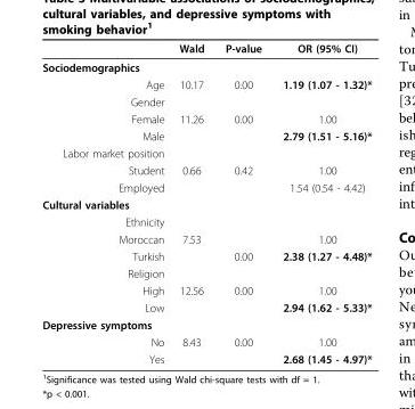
<table><thead><tr><td></td><td>Wald</td><td>P-value</td><td>OR (95% CI)</td></tr></thead><tbody><tr><td colspan="4">Sociodemographics</td></tr><tr><td>Age</td><td>10.17</td><td>0.00</td><td>1.19 (1.07 - 1.32)*</td></tr><tr><td colspan="4">Gender</td></tr><tr><td>Female</td><td>11.26</td><td>0.00</td><td>1.00</td></tr><tr><td>Male</td><td></td><td></td><td>2.79 (1.51 - 5.16)*</td></tr><tr><td colspan="4">Labor market position</td></tr><tr><td>Student</td><td>0.66</td><td>0.42</td><td>1.00</td></tr><tr><td>Employed</td><td></td><td></td><td>1.54 (0.54 - 4.42)</td></tr><tr><td colspan="4">Cultural variables</td></tr><tr><td colspan="4">Ethnicity</td></tr><tr><td>Moroccan</td><td>7.53</td><td></td><td>1.00</td></tr><tr><td>Turkish</td><td></td><td>0.00</td><td>2.38 (1.27 - 4.48)*</td></tr><tr><td colspan="4">Religion</td></tr><tr><td>High</td><td>12.56</td><td>0.00</td><td>1.00</td></tr><tr><td>Low</td><td></td><td></td><td>2.94 (1.62 - 5.33)*</td></tr><tr><td colspan="4">Depressive symptoms</td></tr><tr><td>No</td><td>8.43</td><td>0.00</td><td>1.00</td></tr><tr><td>Yes</td><td></td><td></td><td>2.68 (1.45 - 4.97)*</td></tr></tbody></table>